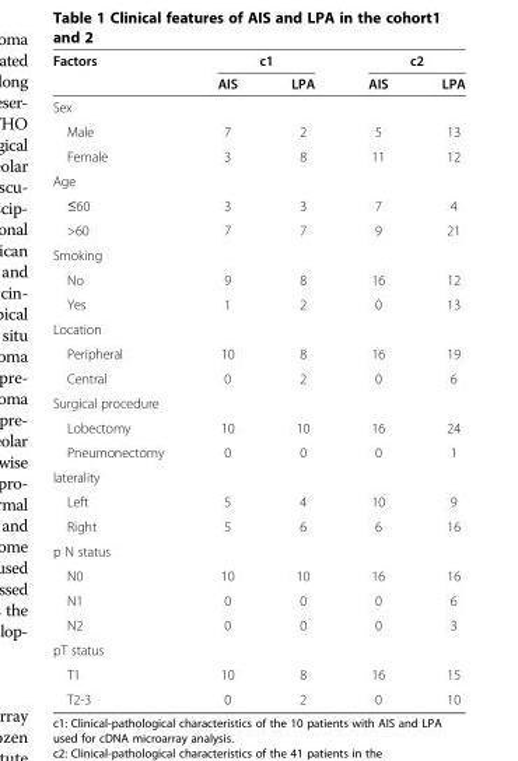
<table><thead><tr><td rowspan="2">Factors</td><td colspan="2">c1</td><td colspan="2">c2</td></tr><tr><td>AIS</td><td>LPA</td><td>AIS</td><td>LPA</td></tr></thead><tbody><tr><td colspan="5">Sex</td></tr><tr><td>Male</td><td>7</td><td>2</td><td>5</td><td>13</td></tr><tr><td>Female</td><td>3</td><td>8</td><td>11</td><td>12</td></tr><tr><td colspan="5">Age</td></tr><tr><td>≤60</td><td>3</td><td>3</td><td>7</td><td>4</td></tr><tr><td>&gt;60</td><td>7</td><td>7</td><td>9</td><td>21</td></tr><tr><td colspan="5">Smoking</td></tr><tr><td>No</td><td>9</td><td>8</td><td>16</td><td>12</td></tr><tr><td>Yes</td><td>1</td><td>2</td><td>0</td><td>13</td></tr><tr><td colspan="5">Location</td></tr><tr><td>Peripheral</td><td>10</td><td>8</td><td>16</td><td>19</td></tr><tr><td>Central</td><td>0</td><td>2</td><td>0</td><td>6</td></tr><tr><td colspan="5">Surgical procedure</td></tr><tr><td>Lobectomy</td><td>10</td><td>10</td><td>16</td><td>24</td></tr><tr><td>Pneumonectomy</td><td>0</td><td>0</td><td>0</td><td>1</td></tr><tr><td colspan="5">laterality</td></tr><tr><td>Left</td><td>5</td><td>4</td><td>10</td><td>9</td></tr><tr><td>Right</td><td>5</td><td>6</td><td>6</td><td>16</td></tr><tr><td colspan="5">p N status</td></tr><tr><td>N0</td><td>10</td><td>10</td><td>16</td><td>16</td></tr><tr><td>N1</td><td>0</td><td>0</td><td>0</td><td>6</td></tr><tr><td>N2</td><td>0</td><td>0</td><td>0</td><td>3</td></tr><tr><td colspan="5">pT status</td></tr><tr><td>T1</td><td>10</td><td>8</td><td>16</td><td>15</td></tr><tr><td>T2-3</td><td>0</td><td>2</td><td>0</td><td>10</td></tr></tbody></table>